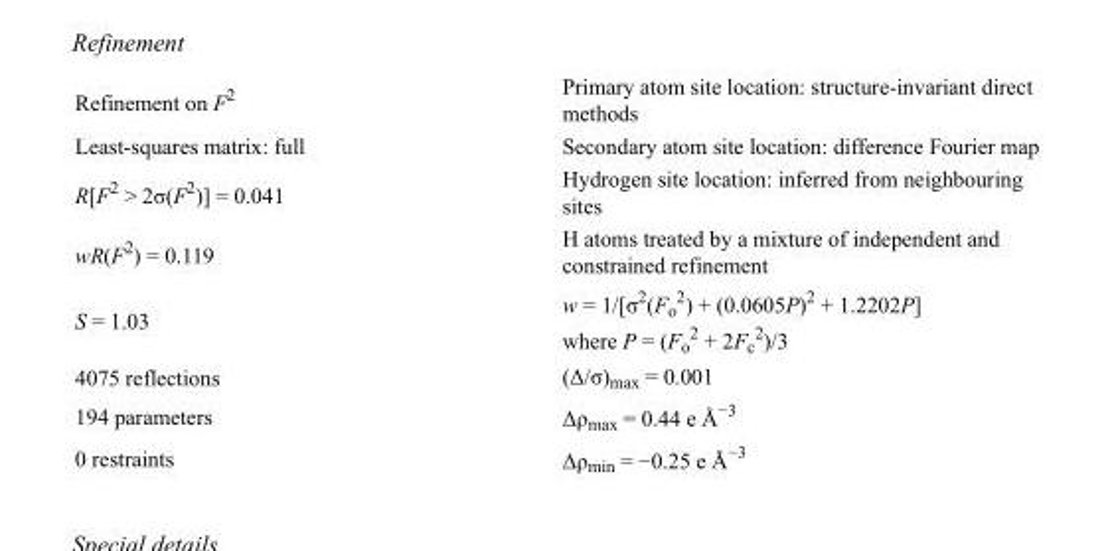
<table><tbody><tr><td>Refinement on F<sup>2</sup></td><td>Primary atom site location: structure-invariant direct methods</td></tr><tr><td>Least-squares matrix: full</td><td>Secondary atom site location: difference Fourier map</td></tr><tr><td>R[F<sup>2</sup> &gt; 2σ(F<sup>2</sup>)] = 0.041</td><td>Hydrogen site location: inferred from neighbouring sites</td></tr><tr><td>wR(F<sup>2</sup>) = 0.119</td><td>H atoms treated by a mixture of independent and constrained refinement</td></tr><tr><td>S = 1.03</td><td>w = 1/[σ<sup>2</sup>(F<sub>o</sub> <sup>2</sup>) + (0.0605P)<sup>2</sup> + 1.2202P] where P = (F<sub>o</sub> <sup>2</sup> + 2F<sub>c</sub> <sup>2</sup>)/3</td></tr><tr><td>4075 reflections</td><td>(Δ/σ)<sub>max</sub> = 0.001</td></tr><tr><td>194 parameters</td><td>Δρ<sub>max</sub> = 0.44 e Å<sup>−3</sup></td></tr><tr><td>0 restraints</td><td>Δρ<sub>min</sub> = −0.25 e Å<sup>−3</sup></td></tr></tbody></table>